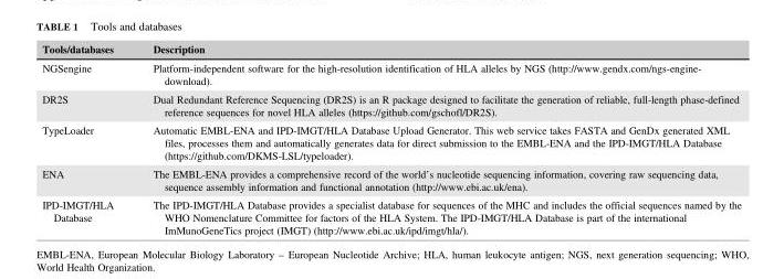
<table><thead><tr><td>Tools/databases</td><td>Description</td></tr></thead><tbody><tr><td>NGSengine</td><td>Platform-independent software for the high-resolution identification of HLA alleles by NGS (http://www.gendx.com/ngs-engine- download).</td></tr><tr><td>DR2S</td><td>Dual Redundant Reference Sequencing (DR2S) is an R package designed to facilitate the generation of reliable, full-length phase-defined reference sequences for novel HLA alleles (https://github.com/gschofl/DR2S).</td></tr><tr><td>TypeLoader</td><td>Automatic EMBL-ENA and IPD-IMGT/HLA Database Upload Generator. This web service takes FASTA and GenDx generated XML files, processes them and automatically generates data for direct submission to the EMBL-ENA and the IPD-IMGT/HLA Database (https://github.com/DKMS-LSL/typeloader).</td></tr><tr><td>ENA</td><td>The EMBL-ENA provides a comprehensive record of the world’s nucleotide sequencing information, covering raw sequencing data, sequence assembly information and functional annotation (http://www.ebi.ac.uk/ena).</td></tr><tr><td>IPD-IMGT/HLA Database</td><td>The IPD-IMGT/HLA Database provides a specialist database for sequences of the MHC and includes the official sequences named by the WHO Nomenclature Committee for factors of the HLA System. The IPD-IMGT/HLA Database is part of the international ImMunoGeneTics project (IMGT) (http://www.ebi.ac.uk/ipd/imgt/hla/).</td></tr></tbody></table>